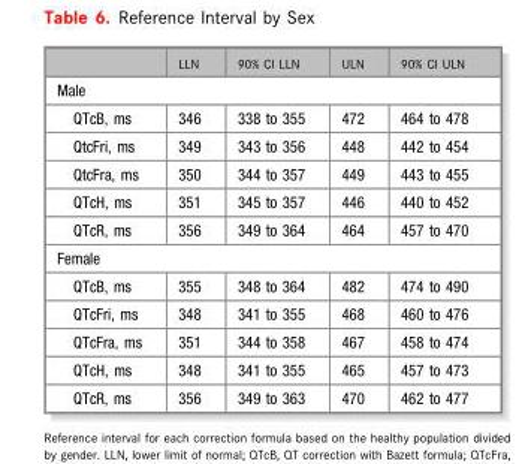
<table><thead><tr><td></td><td>LLN</td><td>90% CI LLN</td><td>ULN</td><td>90% CI ULN</td></tr></thead><tbody><tr><td colspan="5">Male</td></tr><tr><td>QTcB, ms</td><td>346</td><td>338 to 355</td><td>472</td><td>464 to 478</td></tr><tr><td>QtcFri, ms</td><td>349</td><td>343 to 356</td><td>448</td><td>442 to 454</td></tr><tr><td>QtcFra, ms</td><td>350</td><td>344 to 357</td><td>449</td><td>443 to 455</td></tr><tr><td>QTcH, ms</td><td>351</td><td>345 to 357</td><td>446</td><td>440 to 452</td></tr><tr><td>QTcR, ms</td><td>356</td><td>349 to 364</td><td>464</td><td>457 to 470</td></tr><tr><td colspan="5">Female</td></tr><tr><td>QTcB, ms</td><td>355</td><td>348 to 364</td><td>482</td><td>474 to 490</td></tr><tr><td>QTcFri, ms</td><td>348</td><td>341 to 355</td><td>468</td><td>460 to 476</td></tr><tr><td>QTcFra, ms</td><td>351</td><td>344 to 358</td><td>467</td><td>458 to 474</td></tr><tr><td>QTcH, ms</td><td>348</td><td>341 to 355</td><td>465</td><td>457 to 473</td></tr><tr><td>QTcR, ms</td><td>356</td><td>349 to 363</td><td>470</td><td>462 to 477</td></tr></tbody></table>